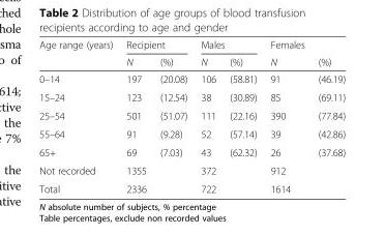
<table><thead><tr><td rowspan="2">Age range (years)</td><td colspan="2">Recipient</td><td colspan="2">Males</td><td rowspan="2">Females N</td><td rowspan="2">(%)</td></tr><tr><td>N</td><td>(%)</td><td>N</td><td>(%)</td></tr></thead><tbody><tr><td>0–14</td><td>197</td><td>(20.08)</td><td>106</td><td>(58.81)</td><td>91</td><td>(46.19)</td></tr><tr><td>15–24</td><td>123</td><td>(12.54)</td><td>38</td><td>(30.89)</td><td>85</td><td>(69.11)</td></tr><tr><td>25–54</td><td>501</td><td>(51.07)</td><td>111</td><td>(22.16)</td><td>390</td><td>(77.84)</td></tr><tr><td>55–64</td><td>91</td><td>(9.28)</td><td>52</td><td>(57.14)</td><td>39</td><td>(42.86)</td></tr><tr><td>65+</td><td>69</td><td>(7.03)</td><td>43</td><td>(62.32)</td><td>26</td><td>(37.68)</td></tr><tr><td>Not recorded</td><td>1355</td><td></td><td>372</td><td></td><td>912</td><td></td></tr><tr><td>Total</td><td>2336</td><td></td><td>722</td><td></td><td>1614</td><td></td></tr></tbody></table>